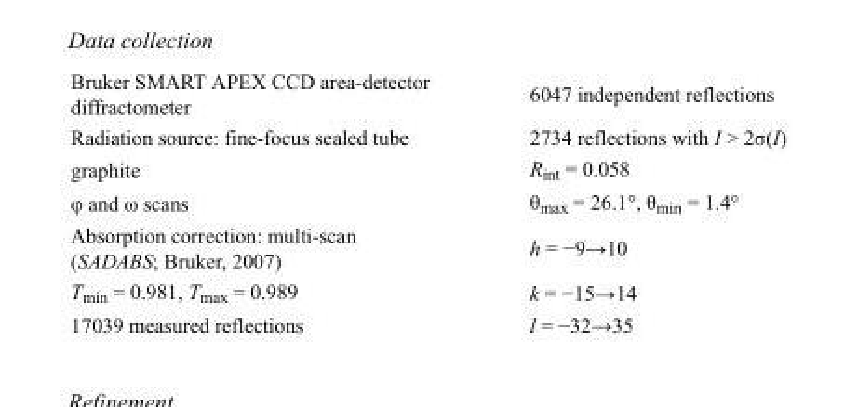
<table><tbody><tr><td>Bruker SMART APEX CCD area-detector diffractometer</td><td>6047 independent reflections</td></tr><tr><td>Radiation source: fine-focus sealed tube</td><td>2734 reflections with I &gt; 2σ(I)</td></tr><tr><td>graphite</td><td>R<sub>int</sub> = 0.058</td></tr><tr><td>φ and ω scans</td><td>θ<sub>max</sub> = 26.1°, θ<sub>min</sub> = 1.4°</td></tr><tr><td>Absorption correction: multi-scan (SADABS; Bruker, 2007)</td><td>h = −9→10</td></tr><tr><td>T<sub>min</sub> = 0.981, T<sub>max</sub> = 0.989</td><td>k = −15→14</td></tr><tr><td>17039 measured reflections</td><td>l = −32→35</td></tr></tbody></table>